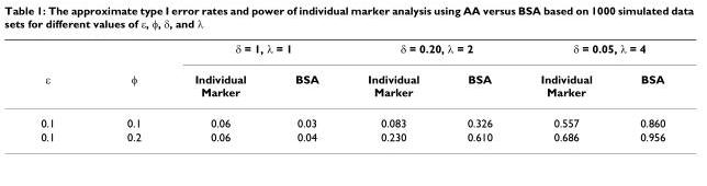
<table><thead><tr><td rowspan="2">ε</td><td rowspan="2">φ</td><td colspan="2">δ = 1, λ = 1</td><td colspan="2">δ = 0.20, λ = 2</td><td colspan="2">δ = 0.05, λ = 4</td></tr><tr><td>Individual Marker</td><td>BSA</td><td>Individual Marker</td><td>BSA</td><td>Individual Marker</td><td>BSA</td></tr></thead><tbody><tr><td>0.1</td><td>0.1</td><td>0.06</td><td>0.03</td><td>0.083</td><td>0.326</td><td>0.557</td><td>0.860</td></tr><tr><td>0.1</td><td>0.2</td><td>0.06</td><td>0.04</td><td>0.230</td><td>0.610</td><td>0.686</td><td>0.956</td></tr></tbody></table>